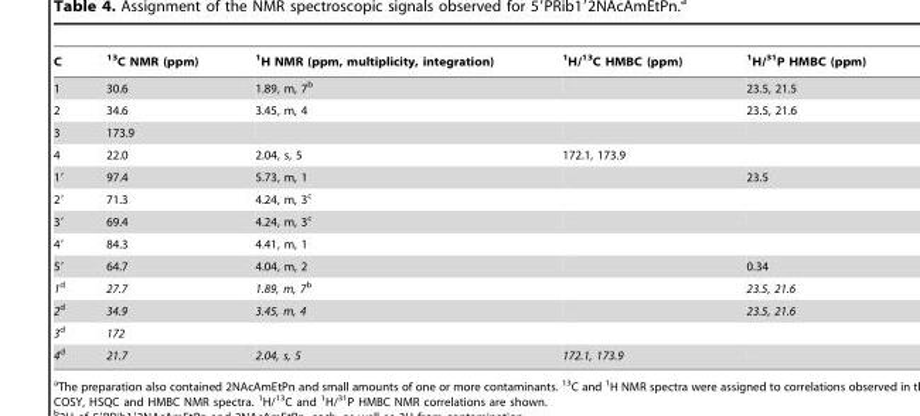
<table><thead><tr><td>C</td><td><sup>13</sup>C NMR (ppm)</td><td><sup>1</sup>H NMR (ppm, multiplicity, integration)</td><td><sup>1</sup>H/<sup>13</sup>C HMBC (ppm)</td><td><sup>1</sup>H/<sup>31</sup>P HMBC (ppm)</td></tr></thead><tbody><tr><td>1</td><td>30.6</td><td>1.89, m, 7<sup>b</sup></td><td></td><td>23.5, 21.5</td></tr><tr><td>2</td><td>34.6</td><td>3.45, m, 4</td><td></td><td>23.5, 21.6</td></tr><tr><td>3</td><td>173.9</td><td></td><td></td><td></td></tr><tr><td>4</td><td>22.0</td><td>2.04, s, 5</td><td>172.1, 173.9</td><td></td></tr><tr><td>1′</td><td>97.4</td><td>5.73, m, 1</td><td></td><td>23.5</td></tr><tr><td>2′</td><td>71.3</td><td>4.24, m, 3<sup>c</sup></td><td></td><td></td></tr><tr><td>3′</td><td>69.4</td><td>4.24, m, 3<sup>c</sup></td><td></td><td></td></tr><tr><td>4′</td><td>84.3</td><td>4.41, m, 1</td><td></td><td></td></tr><tr><td>5′</td><td>64.7</td><td>4.04, m, 2</td><td></td><td>0.34</td></tr><tr><td>1d</td><td>27.7</td><td>1.89, m, 7b</td><td></td><td>23.5, 21.6</td></tr><tr><td>2d</td><td>34.9</td><td>3.45, m, 4</td><td></td><td>23.5, 21.6</td></tr><tr><td>3d</td><td>172</td><td></td><td></td><td></td></tr><tr><td>4d</td><td>21.7</td><td>2.04, s, 5</td><td>172.1, 173.9</td><td></td></tr></tbody></table>